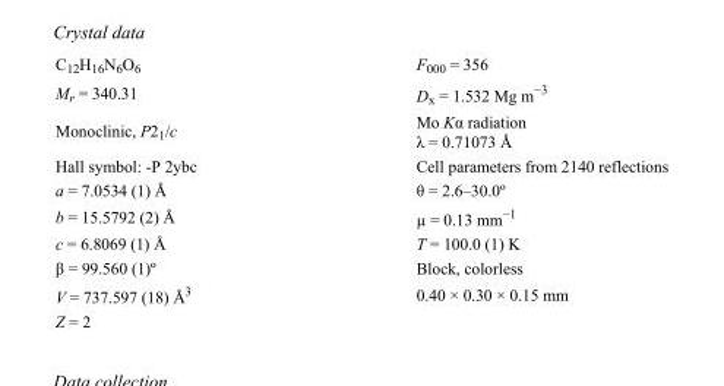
<table><tbody><tr><td>C<sub>12</sub>H<sub>16</sub>N<sub>6</sub>O<sub>6</sub></td><td>F<sub>000</sub> = 356</td></tr><tr><td>M<sub>r</sub> = 340.31</td><td>D<sub>x</sub> = 1.532 Mg m<sup>−3</sup></td></tr><tr><td>Monoclinic, P2<sub>1</sub>/c</td><td>Mo Kα radiation λ = 0.71073 Å</td></tr><tr><td>Hall symbol: -P 2ybc</td><td>Cell parameters from 2140 reflections</td></tr><tr><td>a = 7.0534 (1) Å</td><td>θ = 2.6–30.0º</td></tr><tr><td>b = 15.5792 (2) Å</td><td>µ = 0.13 mm<sup>−1</sup></td></tr><tr><td>c = 6.8069 (1) Å</td><td>T = 100.0 (1) K</td></tr><tr><td>β = 99.560 (1)º</td><td>Block, colorless</td></tr><tr><td>V = 737.597 (18) Å<sup>3</sup></td><td>0.40 × 0.30 × 0.15 mm</td></tr><tr><td>Z = 2</td><td></td></tr></tbody></table>